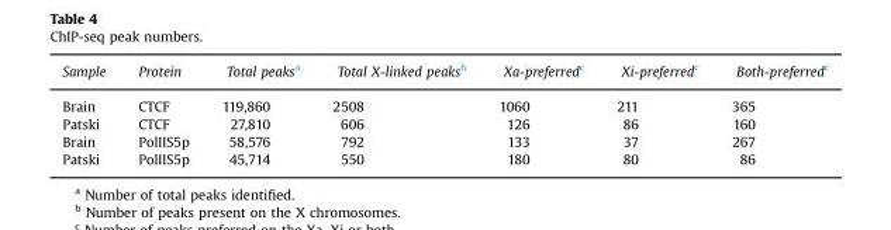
<table><thead><tr><td>Sample</td><td>Protein</td><td>Total peaksa</td><td>Total X-linked peaksb</td><td>Xa-preferredc</td><td>Xi-preferredc</td><td>Both-preferredc</td></tr></thead><tbody><tr><td>Brain</td><td>CTCF</td><td>119,860</td><td>2508</td><td>1060</td><td>211</td><td>365</td></tr><tr><td>Patski</td><td>CTCF</td><td>27,810</td><td>606</td><td>126</td><td>86</td><td>160</td></tr><tr><td>Brain</td><td>PolIIS5p</td><td>58,576</td><td>792</td><td>133</td><td>37</td><td>267</td></tr><tr><td>Patski</td><td>PolIIS5p</td><td>45,714</td><td>550</td><td>180</td><td>80</td><td>86</td></tr></tbody></table>